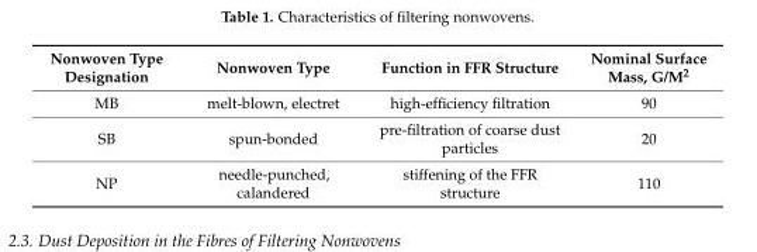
<table><thead><tr><td>Nonwoven Type Designation</td><td>Nonwoven Type</td><td>Function in FFR Structure</td><td>Nominal Surface Mass, G/M<sup>2</sup></td></tr></thead><tbody><tr><td>MB</td><td>melt-blown, electret</td><td>high-efficiency filtration</td><td>90</td></tr><tr><td>SB</td><td>spun-bonded</td><td>pre-filtration of coarse dust particles</td><td>20</td></tr><tr><td>NP</td><td>needle-punched, calandered</td><td>stiffening of the FFR structure</td><td>110</td></tr></tbody></table>